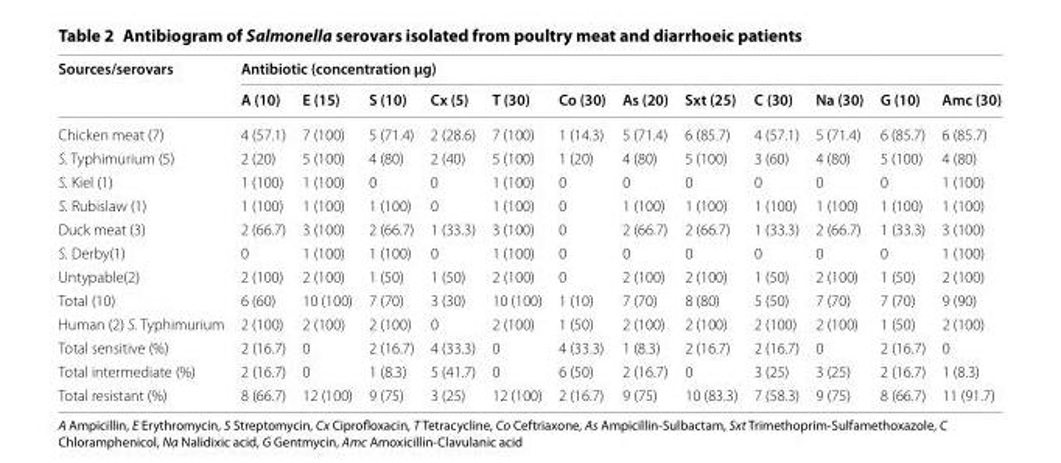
<table><thead><tr><td rowspan="2">Sources/serovars</td><td colspan="12">Antibiotic (concentration µg)</td></tr><tr><td>A (10)</td><td>E (15)</td><td>S (10)</td><td>Cx (5)</td><td>T (30)</td><td>Co (30)</td><td>As (20)</td><td>Sxt (25)</td><td>C (30)</td><td>Na (30)</td><td>G (10)</td><td>Amc (30)</td></tr></thead><tbody><tr><td>Chicken meat (7)</td><td>4 (57.1)</td><td>7 (100)</td><td>5 (71.4)</td><td>2 (28.6)</td><td>7 (100)</td><td>1 (14.3)</td><td>5 (71.4)</td><td>6 (85.7)</td><td>4 (57.1)</td><td>5 (71.4)</td><td>6 (85.7)</td><td>6 (85.7)</td></tr><tr><td>S. Typhimurium (5)</td><td>2 (20)</td><td>5 (100)</td><td>4 (80)</td><td>2 (40)</td><td>5 (100)</td><td>1 (20)</td><td>4 (80)</td><td>5 (100)</td><td>3 (60)</td><td>4 (80)</td><td>5 (100)</td><td>4 (80)</td></tr><tr><td>S. Kiel (1)</td><td>1 (100)</td><td>1 (100)</td><td>0</td><td>0</td><td>1 (100)</td><td>0</td><td>0</td><td>0</td><td>0</td><td>0</td><td>0</td><td>1 (100)</td></tr><tr><td>S. Rubislaw (1)</td><td>1 (100)</td><td>1 (100)</td><td>1 (100)</td><td>0</td><td>1 (100)</td><td>0</td><td>1 (100)</td><td>1 (100)</td><td>1 (100)</td><td>1 (100)</td><td>1 (100)</td><td>1 (100)</td></tr><tr><td>Duck meat (3)</td><td>2 (66.7)</td><td>3 (100)</td><td>2 (66.7)</td><td>1 (33.3)</td><td>3 (100)</td><td>0</td><td>2 (66.7)</td><td>2 (66.7)</td><td>1 (33.3)</td><td>2 (66.7)</td><td>1 (33.3)</td><td>3 (100)</td></tr><tr><td>S. Derby(1)</td><td>0</td><td>1 (100)</td><td>1 (100)</td><td>0</td><td>1 (100)</td><td>0</td><td>0</td><td>0</td><td>0</td><td>0</td><td>0</td><td>1 (100)</td></tr><tr><td>Untypable(2)</td><td>2 (100)</td><td>2 (100)</td><td>1 (50)</td><td>1 (50)</td><td>2 (100)</td><td>0</td><td>2 (100)</td><td>2 (100)</td><td>1 (50)</td><td>2 (100)</td><td>1 (50)</td><td>2 (100)</td></tr><tr><td>Total (10)</td><td>6 (60)</td><td>10 (100)</td><td>7 (70)</td><td>3 (30)</td><td>10 (100)</td><td>1 (10)</td><td>7 (70)</td><td>8 (80)</td><td>5 (50)</td><td>7 (70)</td><td>7 (70)</td><td>9 (90)</td></tr><tr><td>Human (2) S. Typhimurium</td><td>2 (100)</td><td>2 (100)</td><td>2 (100)</td><td>0</td><td>2 (100)</td><td>1 (50)</td><td>2 (100)</td><td>2 (100)</td><td>2 (100)</td><td>2 (100)</td><td>1 (50)</td><td>2 (100)</td></tr><tr><td>Total sensitive (%)</td><td>2 (16.7)</td><td>0</td><td>2 (16.7)</td><td>4 (33.3)</td><td>0</td><td>4 (33.3)</td><td>1 (8.3)</td><td>2 (16.7)</td><td>2 (16.7)</td><td>0</td><td>2 (16.7)</td><td>0</td></tr><tr><td>Total intermediate (%)</td><td>2 (16.7)</td><td>0</td><td>1 (8.3)</td><td>5 (41.7)</td><td>0</td><td>6 (50)</td><td>2 (16.7)</td><td>0</td><td>3 (25)</td><td>3 (25)</td><td>2 (16.7)</td><td>1 (8.3)</td></tr><tr><td>Total resistant (%)</td><td>8 (66.7)</td><td>12 (100)</td><td>9 (75)</td><td>3 (25)</td><td>12 (100)</td><td>2 (16.7)</td><td>9 (75)</td><td>10 (83.3)</td><td>7 (58.3)</td><td>9 (75)</td><td>8 (66.7)</td><td>11 (91.7)</td></tr></tbody></table>